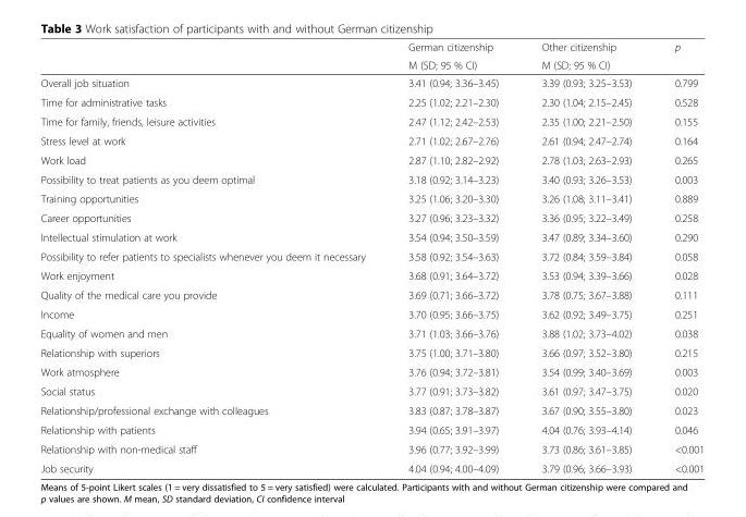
<table><thead><tr><td rowspan="2"></td><td rowspan="2">German citizenship M (SD; 95 % CI)</td><td rowspan="2">Other citizenship M (SD; 95 % CI)</td><td rowspan="2">p</td></tr><tr></tr></thead><tbody><tr><td>Overall job situation</td><td>3.41 (0.94; 3.36–3.45)</td><td>3.39 (0.93; 3.25–3.53)</td><td>0.799</td></tr><tr><td>Time for administrative tasks</td><td>2.25 (1.02; 2.21–2.30)</td><td>2.30 (1.04; 2.15–2.45)</td><td>0.528</td></tr><tr><td>Time for family, friends, leisure activities</td><td>2.47 (1.12; 2.42–2.53)</td><td>2.35 (1.00; 2.21–2.50)</td><td>0.155</td></tr><tr><td>Stress level at work</td><td>2.71 (1.02; 2.67–2.76)</td><td>2.61 (0.94; 2.47–2.74)</td><td>0.164</td></tr><tr><td>Work load</td><td>2.87 (1.10; 2.82–2.92)</td><td>2.78 (1.03; 2.63–2.93)</td><td>0.265</td></tr><tr><td>Possibility to treat patients as you deem optimal</td><td>3.18 (0.92; 3.14–3.23)</td><td>3.40 (0.93; 3.26–3.53)</td><td>0.003</td></tr><tr><td>Training opportunities</td><td>3.25 (1.06; 3.20–3.30)</td><td>3.26 (1.08; 3.11–3.41)</td><td>0.889</td></tr><tr><td>Career opportunities</td><td>3.27 (0.96; 3.23–3.32)</td><td>3.36 (0.95; 3.22–3.49)</td><td>0.258</td></tr><tr><td>Intellectual stimulation at work</td><td>3.54 (0.94; 3.50–3.59)</td><td>3.47 (0.89; 3.34–3.60)</td><td>0.290</td></tr><tr><td>Possibility to refer patients to specialists whenever you deem it necessary</td><td>3.58 (0.92; 3.54–3.63)</td><td>3.72 (0.84; 3.59–3.84)</td><td>0.058</td></tr><tr><td>Work enjoyment</td><td>3.68 (0.91; 3.64–3.72)</td><td>3.53 (0.94; 3.39–3.66)</td><td>0.028</td></tr><tr><td>Quality of the medical care you provide</td><td>3.69 (0.71; 3.66–3.72)</td><td>3.78 (0.75; 3.67–3.88)</td><td>0.111</td></tr><tr><td>Income</td><td>3.70 (0.95; 3.66–3.75)</td><td>3.62 (0.92; 3.49–3.75)</td><td>0.251</td></tr><tr><td>Equality of women and men</td><td>3.71 (1.03; 3.66–3.76)</td><td>3.88 (1.02; 3.73–4.02)</td><td>0.038</td></tr><tr><td>Relationship with superiors</td><td>3.75 (1.00; 3.71–3.80)</td><td>3.66 (0.97; 3.52–3.80)</td><td>0.215</td></tr><tr><td>Work atmosphere</td><td>3.76 (0.94; 3.72–3.81)</td><td>3.54 (0.99; 3.40–3.69)</td><td>0.003</td></tr><tr><td>Social status</td><td>3.77 (0.91; 3.73–3.82)</td><td>3.61 (0.97; 3.47–3.75)</td><td>0.020</td></tr><tr><td>Relationship/professional exchange with colleagues</td><td>3.83 (0.87; 3.78–3.87)</td><td>3.67 (0.90; 3.55–3.80)</td><td>0.023</td></tr><tr><td>Relationship with patients</td><td>3.94 (0.65; 3.91–3.97)</td><td>4.04 (0.76; 3.93–4.14)</td><td>0.046</td></tr><tr><td>Relationship with non-medical staff</td><td>3.96 (0.77; 3.92–3.99)</td><td>3.73 (0.86; 3.61–3.85)</td><td>&lt;0.001</td></tr><tr><td>Job security</td><td>4.04 (0.94; 4.00–4.09)</td><td>3.79 (0.96; 3.66–3.93)</td><td>&lt;0.001</td></tr></tbody></table>